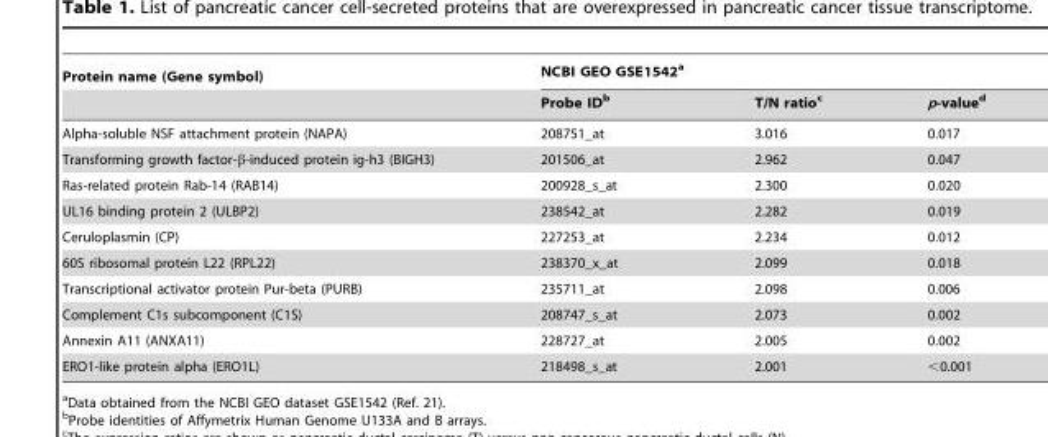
<table><thead><tr><td rowspan="2">Protein name (Gene symbol)</td><td colspan="3">NCBI GEO GSE1542<sup>a</sup></td></tr><tr><td>Probe ID<sup>b</sup></td><td>T/N ratio<sup>c</sup></td><td>p-value<sup>d</sup></td></tr></thead><tbody><tr><td>Alpha-soluble NSF attachment protein (NAPA)</td><td>208751_at</td><td>3.016</td><td>0.017</td></tr><tr><td>Transforming growth factor-β-induced protein ig-h3 (BIGH3)</td><td>201506_at</td><td>2.962</td><td>0.047</td></tr><tr><td>Ras-related protein Rab-14 (RAB14)</td><td>200928_s_at</td><td>2.300</td><td>0.020</td></tr><tr><td>UL16 binding protein 2 (ULBP2)</td><td>238542_at</td><td>2.282</td><td>0.019</td></tr><tr><td>Ceruloplasmin (CP)</td><td>227253_at</td><td>2.234</td><td>0.012</td></tr><tr><td>60S ribosomal protein L22 (RPL22)</td><td>238370_x_at</td><td>2.099</td><td>0.018</td></tr><tr><td>Transcriptional activator protein Pur-beta (PURB)</td><td>235711_at</td><td>2.098</td><td>0.006</td></tr><tr><td>Complement C1s subcomponent (C1S)</td><td>208747_s_at</td><td>2.073</td><td>0.002</td></tr><tr><td>Annexin A11 (ANXA11)</td><td>228727_at</td><td>2.005</td><td>0.002</td></tr><tr><td>ERO1-like protein alpha (ERO1L)</td><td>218498_s_at</td><td>2.001</td><td>&lt;0.001</td></tr></tbody></table>